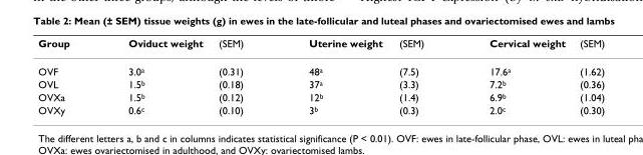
<table><thead><tr><td>Group</td><td>Oviduct weight</td><td>(SEM)</td><td>Uterine weight</td><td>(SEM)</td><td>Cervical weight</td><td>(SEM)</td></tr></thead><tbody><tr><td>OVF</td><td>3.0<sup>a</sup></td><td>(0.31)</td><td>48<sup>a</sup></td><td>(7.5)</td><td>17.6<sup>a</sup></td><td>(1.62)</td></tr><tr><td>OVL</td><td>1.5<sup>b</sup></td><td>(0.18)</td><td>37<sup>a</sup></td><td>(3.3)</td><td>7.2<sup>b</sup></td><td>(0.36)</td></tr><tr><td>OVXa</td><td>1.5<sup>b</sup></td><td>(0.12)</td><td>12<sup>b</sup></td><td>(1.4)</td><td>6.9<sup>b</sup></td><td>(1.04)</td></tr><tr><td>OVXy</td><td>0.6<sup>c</sup></td><td>(0.10)</td><td>3<sup>b</sup></td><td>(0.3)</td><td>2.0<sup>c</sup></td><td>(0.30)</td></tr></tbody></table>